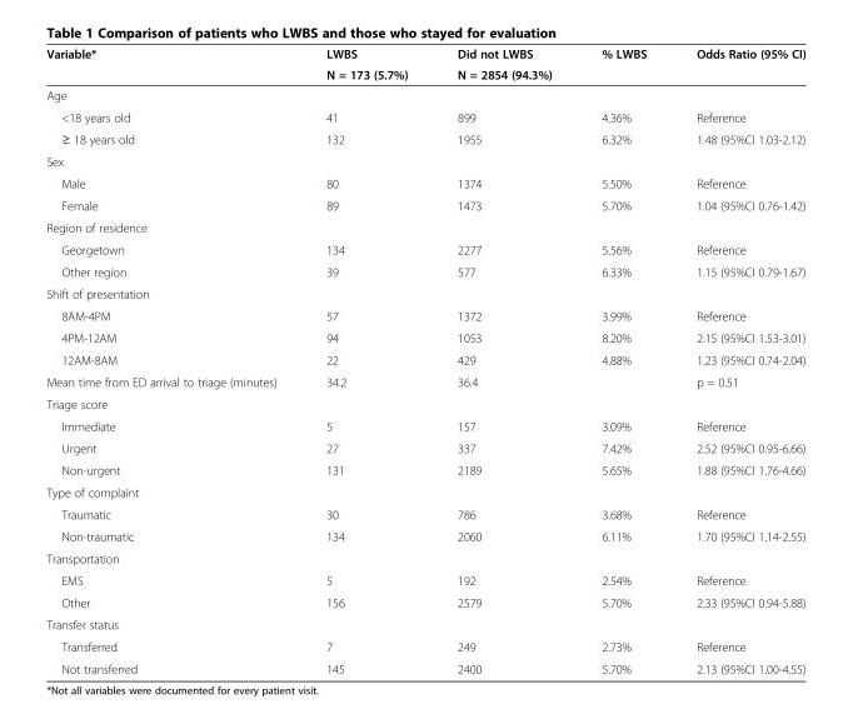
<table><thead><tr><td rowspan="2">Variable*</td><td rowspan="2">LWBS N = 173 (5.7%)</td><td rowspan="2">Did not LWBS N = 2854 (94.3%)</td><td rowspan="2">% LWBS</td><td rowspan="2">Odds Ratio (95% CI)</td></tr><tr></tr></thead><tbody><tr><td colspan="5">Age</td></tr><tr><td>&lt;18 years old</td><td>41</td><td>899</td><td>4.36%</td><td>Reference</td></tr><tr><td>≥ 18 years old</td><td>132</td><td>1955</td><td>6.32%</td><td>1.48 (95%CI 1.03-2.12)</td></tr><tr><td colspan="5">Sex</td></tr><tr><td>Male</td><td>80</td><td>1374</td><td>5.50%</td><td>Reference</td></tr><tr><td>Female</td><td>89</td><td>1473</td><td>5.70%</td><td>1.04 (95%CI 0.76-1.42)</td></tr><tr><td colspan="5">Region of residence</td></tr><tr><td>Georgetown</td><td>134</td><td>2277</td><td>5.56%</td><td>Reference</td></tr><tr><td>Other region</td><td>39</td><td>577</td><td>6.33%</td><td>1.15 (95%CI 0.79-1.67)</td></tr><tr><td colspan="5">Shift of presentation</td></tr><tr><td>8AM-4PM</td><td>57</td><td>1372</td><td>3.99%</td><td>Reference</td></tr><tr><td>4PM-12AM</td><td>94</td><td>1053</td><td>8.20%</td><td>2.15 (95%CI 1.53-3.01)</td></tr><tr><td>12AM-8AM</td><td>22</td><td>429</td><td>4.88%</td><td>1.23 (95%CI 0.74-2.04)</td></tr><tr><td>Mean time from ED arrival to triage (minutes)</td><td>34.2</td><td>36.4</td><td></td><td>p = 0.51</td></tr><tr><td colspan="5">Triage score</td></tr><tr><td>Immediate</td><td>5</td><td>157</td><td>3.09%</td><td>Reference</td></tr><tr><td>Urgent</td><td>27</td><td>337</td><td>7.42%</td><td>2.52 (95%CI 0.95-6.66)</td></tr><tr><td>Non-urgent</td><td>131</td><td>2189</td><td>5.65%</td><td>1.88 (95%CI 1.76-4.66)</td></tr><tr><td colspan="5">Type of complaint</td></tr><tr><td>Traumatic</td><td>30</td><td>786</td><td>3.68%</td><td>Reference</td></tr><tr><td>Non-traumatic</td><td>134</td><td>2060</td><td>6.11%</td><td>1.70 (95%CI 1.14-2.55)</td></tr><tr><td colspan="5">Transportation</td></tr><tr><td>EMS</td><td>5</td><td>192</td><td>2.54%</td><td>Reference</td></tr><tr><td>Other</td><td>156</td><td>2579</td><td>5.70%</td><td>2.33 (95%CI 0.94-5.88)</td></tr><tr><td colspan="5">Transfer status</td></tr><tr><td>Transferred</td><td>7</td><td>249</td><td>2.73%</td><td>Reference</td></tr><tr><td>Not transferred</td><td>145</td><td>2400</td><td>5.70%</td><td>2.13 (95%CI 1.00-4.55)</td></tr></tbody></table>